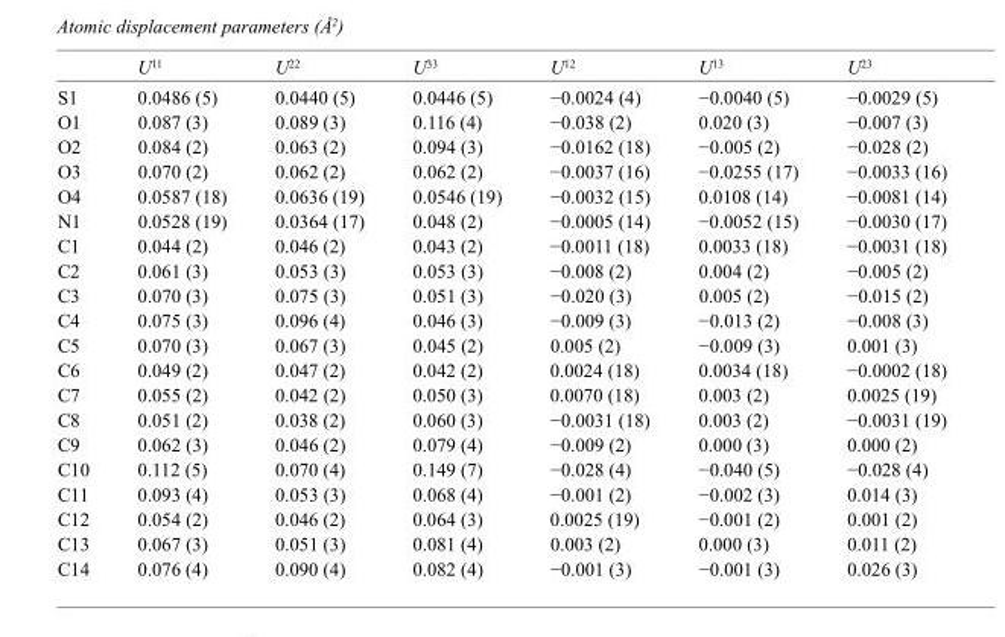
<table><thead><tr><td></td><td>U<sup>11</sup></td><td>U<sup>22</sup></td><td>U<sup>33</sup></td><td>U<sup>12</sup></td><td>U<sup>13</sup></td><td>U<sup>23</sup></td></tr></thead><tbody><tr><td>S1</td><td>0.0486 (5)</td><td>0.0440 (5)</td><td>0.0446 (5)</td><td>−0.0024 (4)</td><td>−0.0040 (5)</td><td>−0.0029 (5)</td></tr><tr><td>O1</td><td>0.087 (3)</td><td>0.089 (3)</td><td>0.116 (4)</td><td>−0.038 (2)</td><td>0.020 (3)</td><td>−0.007 (3)</td></tr><tr><td>O2</td><td>0.084 (2)</td><td>0.063 (2)</td><td>0.094 (3)</td><td>−0.0162 (18)</td><td>−0.005 (2)</td><td>−0.028 (2)</td></tr><tr><td>O3</td><td>0.070 (2)</td><td>0.062 (2)</td><td>0.062 (2)</td><td>−0.0037 (16)</td><td>−0.0255 (17)</td><td>−0.0033 (16)</td></tr><tr><td>O4</td><td>0.0587 (18)</td><td>0.0636 (19)</td><td>0.0546 (19)</td><td>−0.0032 (15)</td><td>0.0108 (14)</td><td>−0.0081 (14)</td></tr><tr><td>N1</td><td>0.0528 (19)</td><td>0.0364 (17)</td><td>0.048 (2)</td><td>−0.0005 (14)</td><td>−0.0052 (15)</td><td>−0.0030 (17)</td></tr><tr><td>C1</td><td>0.044 (2)</td><td>0.046 (2)</td><td>0.043 (2)</td><td>−0.0011 (18)</td><td>0.0033 (18)</td><td>−0.0031 (18)</td></tr><tr><td>C2</td><td>0.061 (3)</td><td>0.053 (3)</td><td>0.053 (3)</td><td>−0.008 (2)</td><td>0.004 (2)</td><td>−0.005 (2)</td></tr><tr><td>C3</td><td>0.070 (3)</td><td>0.075 (3)</td><td>0.051 (3)</td><td>−0.020 (3)</td><td>0.005 (2)</td><td>−0.015 (2)</td></tr><tr><td>C4</td><td>0.075 (3)</td><td>0.096 (4)</td><td>0.046 (3)</td><td>−0.009 (3)</td><td>−0.013 (2)</td><td>−0.008 (3)</td></tr><tr><td>C5</td><td>0.070 (3)</td><td>0.067 (3)</td><td>0.045 (2)</td><td>0.005 (2)</td><td>−0.009 (3)</td><td>0.001 (3)</td></tr><tr><td>C6</td><td>0.049 (2)</td><td>0.047 (2)</td><td>0.042 (2)</td><td>0.0024 (18)</td><td>0.0034 (18)</td><td>−0.0002 (18)</td></tr><tr><td>C7</td><td>0.055 (2)</td><td>0.042 (2)</td><td>0.050 (3)</td><td>0.0070 (18)</td><td>0.003 (2)</td><td>0.0025 (19)</td></tr><tr><td>C8</td><td>0.051 (2)</td><td>0.038 (2)</td><td>0.060 (3)</td><td>−0.0031 (18)</td><td>0.003 (2)</td><td>−0.0031 (19)</td></tr><tr><td>C9</td><td>0.062 (3)</td><td>0.046 (2)</td><td>0.079 (4)</td><td>−0.009 (2)</td><td>0.000 (3)</td><td>0.000 (2)</td></tr><tr><td>C10</td><td>0.112 (5)</td><td>0.070 (4)</td><td>0.149 (7)</td><td>−0.028 (4)</td><td>−0.040 (5)</td><td>−0.028 (4)</td></tr><tr><td>C11</td><td>0.093 (4)</td><td>0.053 (3)</td><td>0.068 (4)</td><td>−0.001 (2)</td><td>−0.002 (3)</td><td>0.014 (3)</td></tr><tr><td>C12</td><td>0.054 (2)</td><td>0.046 (2)</td><td>0.064 (3)</td><td>0.0025 (19)</td><td>−0.001 (2)</td><td>0.001 (2)</td></tr><tr><td>C13</td><td>0.067 (3)</td><td>0.051 (3)</td><td>0.081 (4)</td><td>0.003 (2)</td><td>0.000 (3)</td><td>0.011 (2)</td></tr><tr><td>C14</td><td>0.076 (4)</td><td>0.090 (4)</td><td>0.082 (4)</td><td>−0.001 (3)</td><td>−0.001 (3)</td><td>0.026 (3)</td></tr></tbody></table>